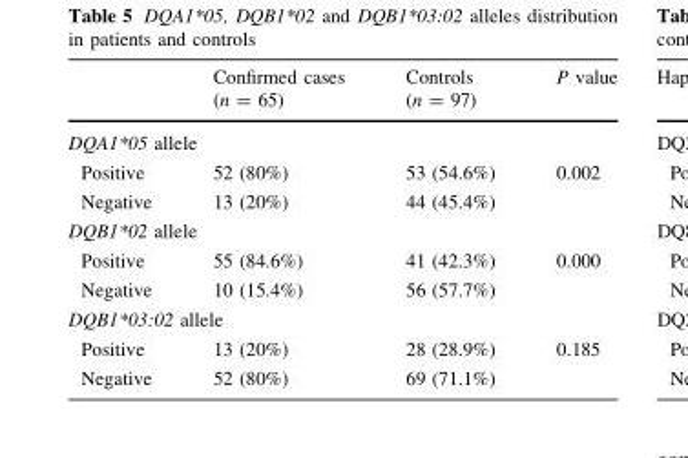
<table><thead><tr><td></td><td>Confirmed cases (n = 65)</td><td>Controls (n = 97)</td><td>P value</td></tr></thead><tbody><tr><td colspan="4">DQA1*05 allele</td></tr><tr><td>Positive</td><td>52 (80%)</td><td>53 (54.6%)</td><td rowspan="2">0.002</td></tr><tr><td>Negative</td><td>13 (20%)</td><td>44 (45.4%)</td></tr><tr><td colspan="4">DQB1*02 allele</td></tr><tr><td>Positive</td><td>55 (84.6%)</td><td>41 (42.3%)</td><td rowspan="2">0.000</td></tr><tr><td>Negative</td><td>10 (15.4%)</td><td>56 (57.7%)</td></tr><tr><td colspan="4">DQB1*03:02 allele</td></tr><tr><td>Positive</td><td>13 (20%)</td><td>28 (28.9%)</td><td rowspan="2">0.185</td></tr><tr><td>Negative</td><td>52 (80%)</td><td>69 (71.1%)</td></tr></tbody></table>